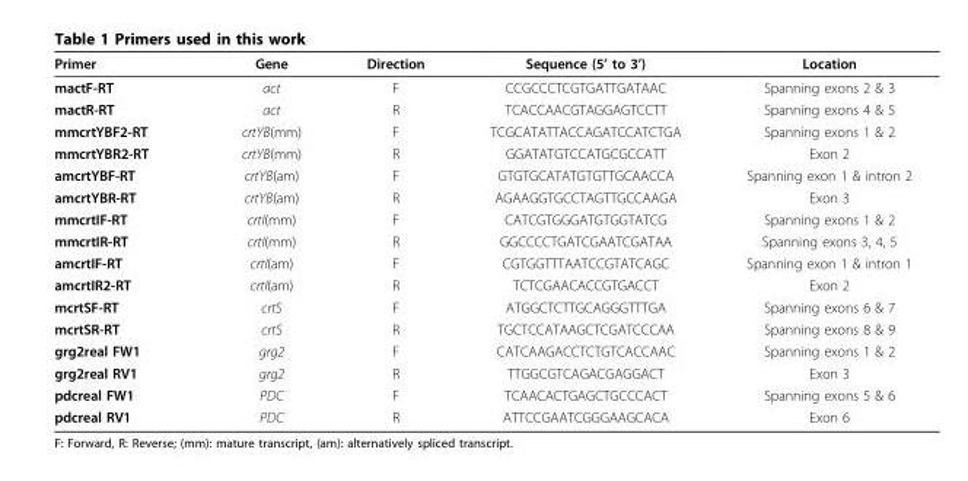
<table><thead><tr><td>Primer</td><td>Gene</td><td>Direction</td><td>Sequence (5’ to 3’)</td><td>Location</td></tr></thead><tbody><tr><td>mactF-RT</td><td>act</td><td>F</td><td>CCGCCCTCGTGATTGATAAC</td><td>Spanning exons 2 &amp; 3</td></tr><tr><td>mactR-RT</td><td>act</td><td>R</td><td>TCACCAACGTAGGAGTCCTT</td><td>Spanning exons 4 &amp; 5</td></tr><tr><td>mmcrtYBF2-RT</td><td>crtYB(mm)</td><td>F</td><td>TCGCATATTACCAGATCCATCTGA</td><td>Spanning exons 1 &amp; 2</td></tr><tr><td>mmcrtYBR2-RT</td><td>crtYB(mm)</td><td>R</td><td>GGATATGTCCATGCGCCATT</td><td>Exon 2</td></tr><tr><td>amcrtYBF-RT</td><td>crtYB(am)</td><td>F</td><td>GTGTGCATATGTGTTGCAACCA</td><td>Spanning exon 1 &amp; intron 2</td></tr><tr><td>amcrtYBR-RT</td><td>crtYB(am)</td><td>R</td><td>AGAAGGTGCCTAGTTGCCAAGA</td><td>Exon 3</td></tr><tr><td>mmcrtIF-RT</td><td>crtI(mm)</td><td>F</td><td>CATCGTGGGATGTGGTATCG</td><td>Spanning exons 1 &amp; 2</td></tr><tr><td>mmcrtIR-RT</td><td>crtI(mm)</td><td>R</td><td>GGCCCCTGATCGAATCGATAA</td><td>Spanning exons 3, 4, 5</td></tr><tr><td>amcrtIF-RT</td><td>crtI(am)</td><td>F</td><td>CGTGGTTTAATCCGTATCAGC</td><td>Spanning exon 1 &amp; intron 1</td></tr><tr><td>amcrtIR2-RT</td><td>crtI(am)</td><td>R</td><td>TCTCGAACACCGTGACCT</td><td>Exon 2</td></tr><tr><td>mcrtSF-RT</td><td>crtS</td><td>F</td><td>ATGGCTCTTGCAGGGTTTGA</td><td>Spanning exons 6 &amp; 7</td></tr><tr><td>mcrtSR-RT</td><td>crtS</td><td>R</td><td>TGCTCCATAAGCTCGATCCCAA</td><td>Spanning exons 8 &amp; 9</td></tr><tr><td>grg2real FW1</td><td>grg2</td><td>F</td><td>CATCAAGACCTCTGTCACCAAC</td><td>Spanning exons 1 &amp; 2</td></tr><tr><td>grg2real RV1</td><td>grg2</td><td>R</td><td>TTGGCGTCAGACGAGGACT</td><td>Exon 3</td></tr><tr><td>pdcreal FW1</td><td>PDC</td><td>F</td><td>TCAACACTGAGCTGCCCACT</td><td>Spanning exons 5 &amp; 6</td></tr><tr><td>pdcreal RV1</td><td>PDC</td><td>R</td><td>ATTCCGAATCGGGAAGCACA</td><td>Exon 6</td></tr></tbody></table>